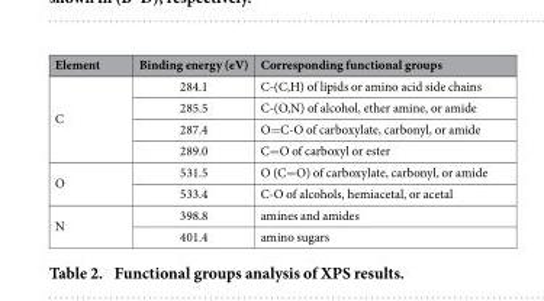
<table><thead><tr><td>Element</td><td>Binding energy (eV)</td><td>Corresponding functional groups</td></tr></thead><tbody><tr><td rowspan="4">C</td><td>284.1</td><td>C-(C,H) of lipids or amino acid side chains</td></tr><tr><td>285.5</td><td>C-(O,N) of alcohol, ether amine, or amide</td></tr><tr><td>287.4</td><td>O=C-O of carboxylate, carbonyl, or amide</td></tr><tr><td>289.0</td><td>C=O of carboxyl or ester</td></tr><tr><td rowspan="2">O</td><td>531.5</td><td>O (C=O) of carboxylate, carbonyl, or amide</td></tr><tr><td>533.4</td><td>C-O of alcohols, hemiacetal, or acetal</td></tr><tr><td rowspan="2">N</td><td>398.8</td><td>amines and amides</td></tr><tr><td>401.4</td><td>amino sugars</td></tr></tbody></table>